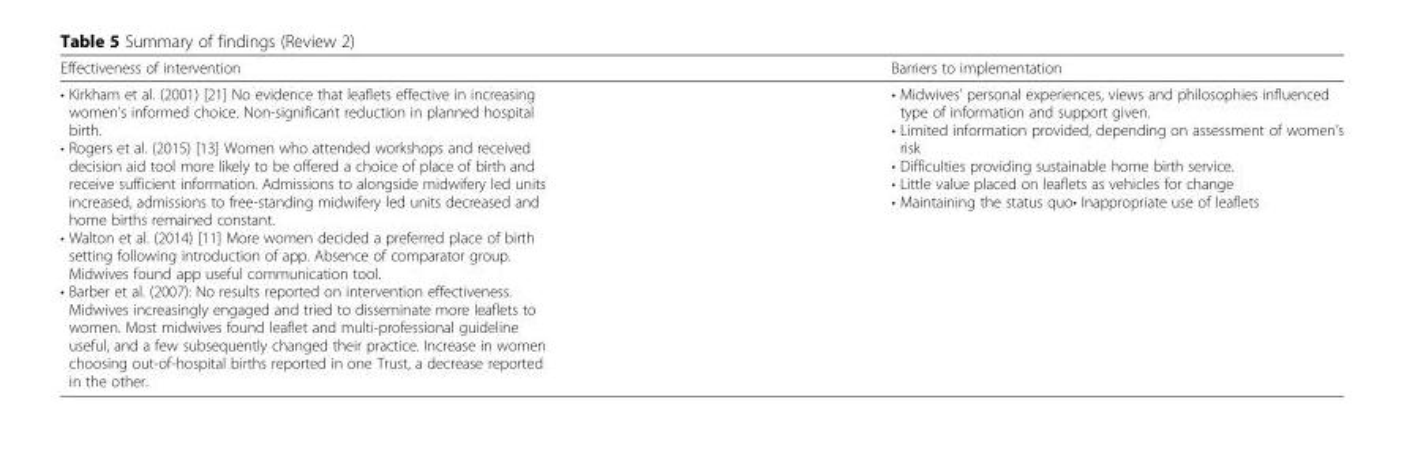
<table><thead><tr><td>Effectiveness of intervention</td><td>Barriers to implementation</td></tr></thead><tbody><tr><td>• Kirkham et al. (2001) [21] No evidence that leaflets effective in increasing women’s informed choice. Non-significant reduction in planned hospital birth. • Rogers et al. (2015) [13] Women who attended workshops and received decision aid tool more likely to be offered a choice of place of birth and receive sufficient information. Admissions to alongside midwifery led units increased, admissions to free-standing midwifery led units decreased and home births remained constant. • Walton et al. (2014) [11] More women decided a preferred place of birth setting following introduction of app. Absence of comparator group. Midwives found app useful communication tool. • Barber et al. (2007): No results reported on intervention effectiveness. Midwives increasingly engaged and tried to disseminate more leaflets to women. Most midwives found leaflet and multi-professional guideline useful, and a few subsequently changed their practice. Increase in women choosing out-of-hospital births reported in one Trust, a decrease reported in the other.</td><td>• Midwives’ personal experiences, views and philosophies influenced type of information and support given. • Limited information provided, depending on assessment of women’s risk • Difficulties providing sustainable home birth service. • Little value placed on leaflets as vehicles for change • Maintaining the status quo• Inappropriate use of leaflets</td></tr></tbody></table>